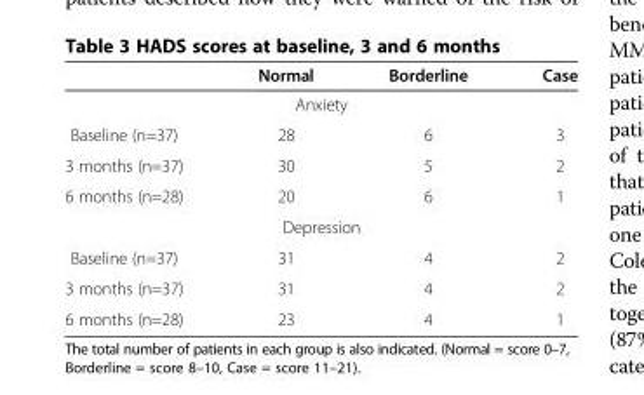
<table><thead><tr><td></td><td>Normal</td><td>Borderline</td><td>Case</td></tr></thead><tbody><tr><td colspan="4">Anxiety</td></tr><tr><td>Baseline (n=37)</td><td>28</td><td>6</td><td>3</td></tr><tr><td>3 months (n=37)</td><td>30</td><td>5</td><td>2</td></tr><tr><td>6 months (n=28)</td><td>20</td><td>6</td><td>1</td></tr><tr><td colspan="4">Depression</td></tr><tr><td>Baseline (n=37)</td><td>31</td><td>4</td><td>2</td></tr><tr><td>3 months (n=37)</td><td>31</td><td>4</td><td>2</td></tr><tr><td>6 months (n=28)</td><td>23</td><td>4</td><td>1</td></tr></tbody></table>